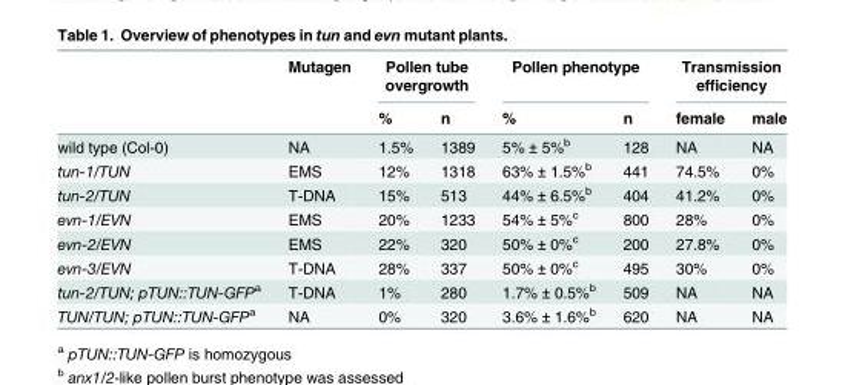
<table><thead><tr><td rowspan="2"></td><td rowspan="2">Mutagen</td><td colspan="2">Pollen tube overgrowth</td><td colspan="2">Pollen phenotype</td><td colspan="2">Transmission efficiency</td></tr><tr><td>%</td><td>n</td><td>%</td><td>n</td><td>female</td><td>male</td></tr></thead><tbody><tr><td>wild type (Col-0)</td><td>NA</td><td>1.5%</td><td>1389</td><td>5% ± 5%<sup>b</sup></td><td>128</td><td>NA</td><td>NA</td></tr><tr><td>tun-1/TUN</td><td>EMS</td><td>12%</td><td>1318</td><td>63% ± 1.5%<sup>b</sup></td><td>441</td><td>74.5%</td><td>0%</td></tr><tr><td>tun-2/TUN</td><td>T-DNA</td><td>15%</td><td>513</td><td>44% ± 6.5%<sup>b</sup></td><td>404</td><td>41.2%</td><td>0%</td></tr><tr><td>evn-1/EVN</td><td>EMS</td><td>20%</td><td>1233</td><td>54% ± 5%<sup>c</sup></td><td>800</td><td>28%</td><td>0%</td></tr><tr><td>evn-2/EVN</td><td>EMS</td><td>22%</td><td>320</td><td>50% ± 0%<sup>c</sup></td><td>200</td><td>27.8%</td><td>0%</td></tr><tr><td>evn-3/EVN</td><td>T-DNA</td><td>28%</td><td>337</td><td>50% ± 0%<sup>c</sup></td><td>495</td><td>30%</td><td>0%</td></tr><tr><td>tun-2/TUN; pTUN::TUN-GFP<sup>a</sup></td><td>T-DNA</td><td>1%</td><td>280</td><td>1.7% ± 0.5%<sup>b</sup></td><td>509</td><td>NA</td><td>NA</td></tr><tr><td>TUN/TUN; pTUN::TUN-GFP<sup>a</sup></td><td>NA</td><td>0%</td><td>320</td><td>3.6% ± 1.6%<sup>b</sup></td><td>620</td><td>NA</td><td>NA</td></tr></tbody></table>